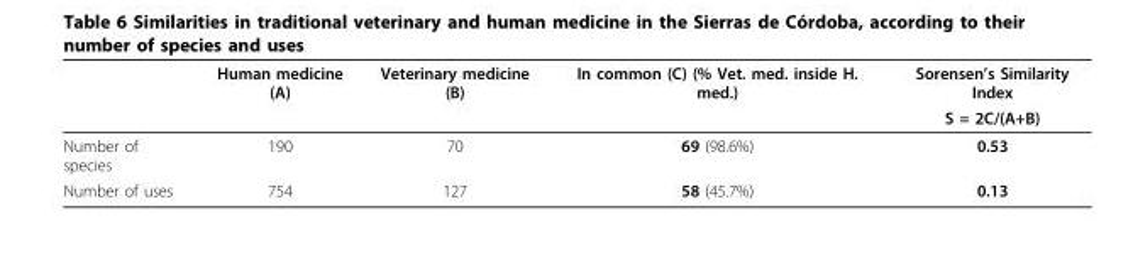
<table><thead><tr><td rowspan="2"></td><td rowspan="2">Human medicine (A)</td><td rowspan="2">Veterinary medicine (B)</td><td rowspan="2">In common (C) (% Vet. med. inside H. med.)</td><td rowspan="2">Sorensen’s Similarity Index S = 2C/(A+B)</td></tr><tr></tr></thead><tbody><tr><td>Number of species</td><td>190</td><td>70</td><td>69 (98.6%)</td><td>0.53</td></tr><tr><td>Number of uses</td><td>754</td><td>127</td><td>58 (45.7%)</td><td>0.13</td></tr></tbody></table>